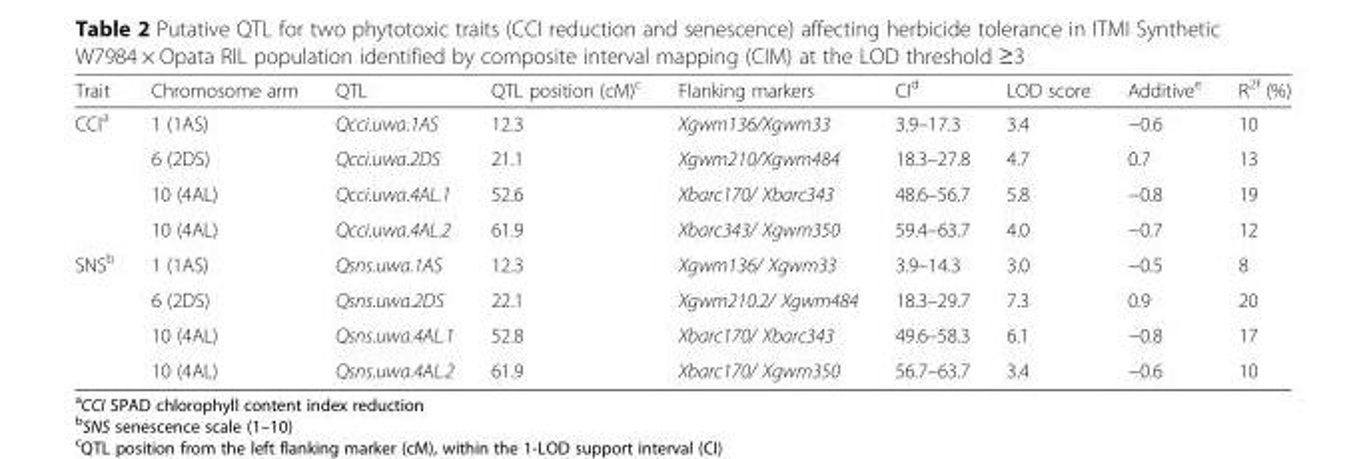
<table><thead><tr><td>Trait</td><td>Chromosome arm</td><td>QTL</td><td>QTL position (cM)<sup>c</sup></td><td>Flanking markers</td><td>CI<sup>d</sup></td><td>LOD score</td><td>Additive<sup>e</sup></td><td>R<sup>2f</sup> (%)</td></tr></thead><tbody><tr><td rowspan="4">CCI<sup>a</sup></td><td>1 (1AS)</td><td>Qcci.uwa.1AS</td><td>12.3</td><td>Xgwm136/Xgwm33</td><td>3.9–17.3</td><td>3.4</td><td>−0.6</td><td>10</td></tr><tr><td>6 (2DS)</td><td>Qcci.uwa.2DS</td><td>21.1</td><td>Xgwm210/Xgwm484</td><td>18.3–27.8</td><td>4.7</td><td>0.7</td><td>13</td></tr><tr><td>10 (4AL)</td><td>Qcci.uwa.4AL.1</td><td>52.6</td><td>Xbarc170/ Xbarc343</td><td>48.6–56.7</td><td>5.8</td><td>−0.8</td><td>19</td></tr><tr><td>10 (4AL)</td><td>Qcci.uwa.4AL.2</td><td>61.9</td><td>Xbarc343/ Xgwm350</td><td>59.4–63.7</td><td>4.0</td><td>−0.7</td><td>12</td></tr><tr><td rowspan="4">SNS<sup>b</sup></td><td>1 (1AS)</td><td>Qsns.uwa.1AS</td><td>12.3</td><td>Xgwm136/ Xgwm33</td><td>3.9–14.3</td><td>3.0</td><td>−0.5</td><td>8</td></tr><tr><td>6 (2DS)</td><td>Qsns.uwa.2DS</td><td>22.1</td><td>Xgwm210.2/ Xgwm484</td><td>18.3–29.7</td><td>7.3</td><td>0.9</td><td>20</td></tr><tr><td>10 (4AL)</td><td>Qsns.uwa.4AL.1</td><td>52.8</td><td>Xbarc170/ Xbarc343</td><td>49.6–58.3</td><td>6.1</td><td>−0.8</td><td>17</td></tr><tr><td>10 (4AL)</td><td>Qsns.uwa.4AL.2</td><td>61.9</td><td>Xbarc170/ Xgwm350</td><td>56.7–63.7</td><td>3.4</td><td>−0.6</td><td>10</td></tr></tbody></table>